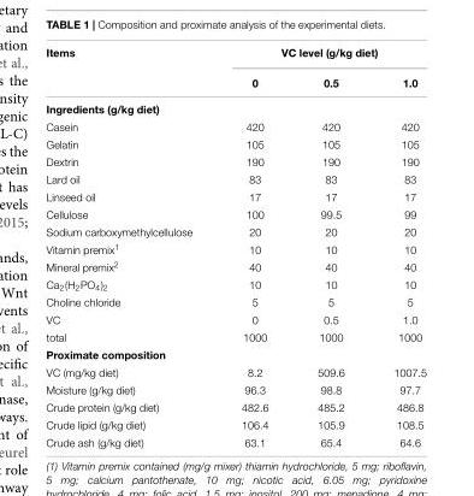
<table><thead><tr><td rowspan="2">Items</td><td colspan="3">VC level (g/kg diet)</td></tr><tr><td>0</td><td>0.5</td><td>1.0</td></tr></thead><tbody><tr><td colspan="4">Ingredients (g/kg diet)</td></tr><tr><td>Casein</td><td>420</td><td>420</td><td>420</td></tr><tr><td>Gelatin</td><td>105</td><td>105</td><td>105</td></tr><tr><td>Dextrin</td><td>190</td><td>190</td><td>190</td></tr><tr><td>Lard oil</td><td>83</td><td>83</td><td>83</td></tr><tr><td>Linseed oil</td><td>17</td><td>17</td><td>17</td></tr><tr><td>Cellulose</td><td>100</td><td>99.5</td><td>99</td></tr><tr><td>Sodium carboxymethylcellulose</td><td>20</td><td>20</td><td>20</td></tr><tr><td>Vitamin premix<sup>1</sup></td><td>10</td><td>10</td><td>10</td></tr><tr><td>Mineral premix<sup>2</sup></td><td>40</td><td>40</td><td>40</td></tr><tr><td>Ca<sub>2</sub>(H<sub>2</sub>PO<sub>4</sub>)<sub>2</sub></td><td>10</td><td>10</td><td>10</td></tr><tr><td>Choline chloride</td><td>5</td><td>5</td><td>5</td></tr><tr><td>VC</td><td>0</td><td>0.5</td><td>1.0</td></tr><tr><td>total</td><td>1000</td><td>1000</td><td>1000</td></tr><tr><td colspan="4">Proximate composition</td></tr><tr><td>VC (mg/kg diet)</td><td>8.2</td><td>509.6</td><td>1007.5</td></tr><tr><td>Moisture (g/kg diet)</td><td>96.3</td><td>98.8</td><td>97.7</td></tr><tr><td>Crude protein (g/kg diet)</td><td>482.6</td><td>485.2</td><td>486.8</td></tr><tr><td>Crude lipid (g/kg diet)</td><td>106.4</td><td>105.9</td><td>108.5</td></tr><tr><td>Crude ash (g/kg diet)</td><td>63.1</td><td>65.4</td><td>64.6</td></tr></tbody></table>